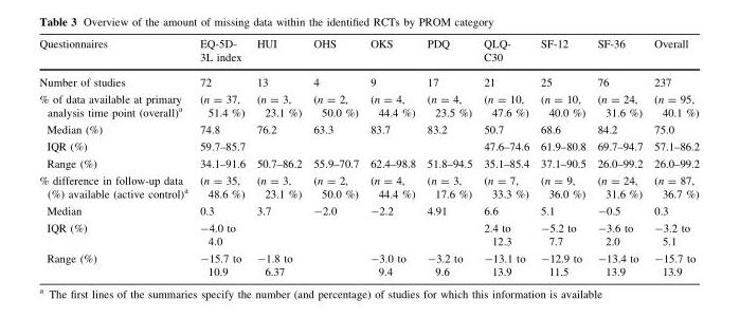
<table><thead><tr><td>Questionnaires</td><td>EQ-5D- 3L index</td><td>HUI</td><td>OHS</td><td>OKS</td><td>PDQ</td><td>QLQ- C30</td><td>SF-12</td><td>SF-36</td><td>Overall</td></tr></thead><tbody><tr><td>Number of studies</td><td>72</td><td>13</td><td>4</td><td>9</td><td>17</td><td>21</td><td>25</td><td>76</td><td>237</td></tr><tr><td>% of data available at primary analysis time point (overall)<sup>a</sup></td><td>(n = 37, 51.4 %)</td><td>(n = 3, 23.1 %)</td><td>(n = 2, 50.0 %)</td><td>(n = 4, 44.4 %)</td><td>(n = 4, 23.5 %)</td><td>(n = 10, 47.6 %)</td><td>(n = 10, 40.0 %)</td><td>(n = 24, 31.6 %)</td><td>(n = 95, 40.1 %)</td></tr><tr><td>Median (%)</td><td>74.8</td><td>76.2</td><td>63.3</td><td>83.7</td><td>83.2</td><td>50.7</td><td>68.6</td><td>84.2</td><td>75.0</td></tr><tr><td>IQR (%)</td><td>59.7–85.7</td><td></td><td></td><td></td><td></td><td>47.6–74.6</td><td>61.9–80.8</td><td>69.7–94.7</td><td>57.1–86.2</td></tr><tr><td>Range (%)</td><td>34.1–91.6</td><td>50.7–86.2</td><td>55.9–70.7</td><td>62.4–98.8</td><td>51.8–94.5</td><td>35.1–85.4</td><td>37.1–90.5</td><td>26.0–99.2</td><td>26.0–99.2</td></tr><tr><td>% difference in follow-up data (%) available (active control)<sup>a</sup></td><td>(n = 35, 48.6 %)</td><td>(n = 3, 23.1 %)</td><td>(n = 2, 50.0 %)</td><td>(n = 4, 44.4 %)</td><td>(n = 3, 17.6 %)</td><td>(n = 7, 33.3 %)</td><td>(n = 9, 36.0 %)</td><td>(n = 24, 31.6 %)</td><td>(n = 87, 36.7 %)</td></tr><tr><td>Median</td><td>0.3</td><td>3.7</td><td>-2.0</td><td>-2.2</td><td>4.91</td><td>6.6</td><td>5.1</td><td>-0.5</td><td>0.3</td></tr><tr><td>IQR (%)</td><td>-4.0 to 4.0</td><td></td><td></td><td></td><td></td><td>2.4 to 12.3</td><td>-5.2 to 7.7</td><td>-3.6 to 2.0</td><td>-3.2 to 5.1</td></tr><tr><td>Range (%)</td><td>-15.7 to 10.9</td><td>-1.8 to 6.37</td><td></td><td>-3.0 to 9.4</td><td>-3.2 to 9.6</td><td>-13.1 to 13.9</td><td>-12.9 to 11.5</td><td>-13.4 to 13.9</td><td>-15.7 to 13.9</td></tr></tbody></table>